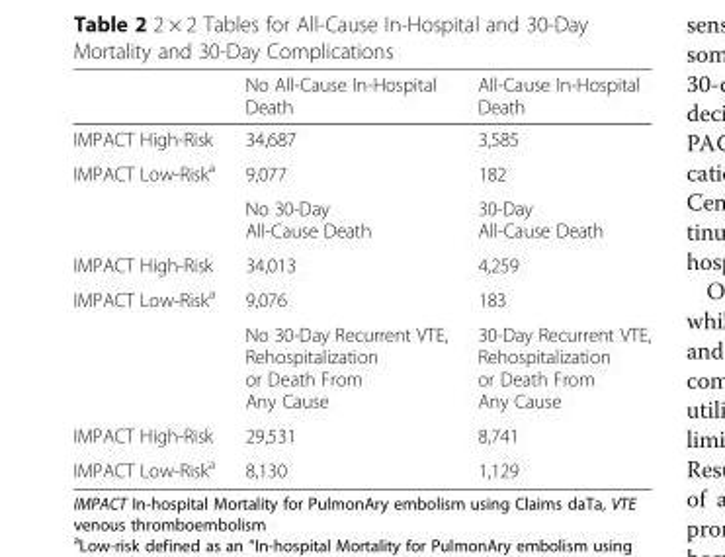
<table><thead><tr><td></td><td>No All-Cause In-Hospital Death</td><td>All-Cause In-Hospital Death</td></tr></thead><tbody><tr><td>IMPACT High-Risk</td><td>34,687</td><td>3,585</td></tr><tr><td rowspan="2">IMPACT Low-Risk<sup>a</sup></td><td>9,077</td><td>182</td></tr><tr><td>No 30-Day All-Cause Death</td><td>30-Day All-Cause Death</td></tr><tr><td>IMPACT High-Risk</td><td>34,013</td><td>4,259</td></tr><tr><td rowspan="2">IMPACT Low-Risk<sup>a</sup></td><td>9,076</td><td>183</td></tr><tr><td>No 30-Day Recurrent VTE, Rehospitalization or Death From Any Cause</td><td>30-Day Recurrent VTE, Rehospitalization or Death From Any Cause</td></tr><tr><td>IMPACT High-Risk</td><td>29,531</td><td>8,741</td></tr><tr><td>IMPACT Low-Risk<sup>a</sup></td><td>8,130</td><td>1,129</td></tr></tbody></table>